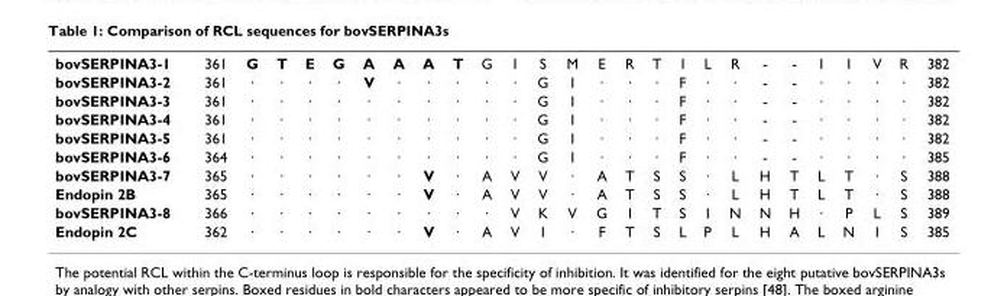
<table><tbody><tr><td>bovSERPINA3-1</td><td>361</td><td>G</td><td>T</td><td>E</td><td>G</td><td>A</td><td>A</td><td>A</td><td>T</td><td>G</td><td>I</td><td>S</td><td>M</td><td>E</td><td>R</td><td>T</td><td>I</td><td>L</td><td>R</td><td>-</td><td>-</td><td>I</td><td>I</td><td>V</td><td>R</td><td>382</td></tr><tr><td>bovSERPINA3-2</td><td>361</td><td>·</td><td>·</td><td>·</td><td>·</td><td>V</td><td>·</td><td>·</td><td>·</td><td>·</td><td>·</td><td>G</td><td>I</td><td>·</td><td>·</td><td>·</td><td>F</td><td>·</td><td>·</td><td>-</td><td>-</td><td>·</td><td>·</td><td>·</td><td>·</td><td>382</td></tr><tr><td>bovSERPINA3-3</td><td>361</td><td>·</td><td>·</td><td>·</td><td>·</td><td>·</td><td>·</td><td>·</td><td>·</td><td>·</td><td>·</td><td>G</td><td>I</td><td>·</td><td>·</td><td>·</td><td>F</td><td>·</td><td>·</td><td>-</td><td>-</td><td>·</td><td>·</td><td>·</td><td>·</td><td>382</td></tr><tr><td>bovSERPINA3-4</td><td>361</td><td>·</td><td>·</td><td>·</td><td>·</td><td>·</td><td>·</td><td>·</td><td>·</td><td>·</td><td>·</td><td>G</td><td>I</td><td>·</td><td>·</td><td>·</td><td>F</td><td>·</td><td>·</td><td>-</td><td>-</td><td>·</td><td>·</td><td>·</td><td>·</td><td>382</td></tr><tr><td>bovSERPINA3-5</td><td>361</td><td>·</td><td>·</td><td>·</td><td>·</td><td>·</td><td>·</td><td>·</td><td>·</td><td>·</td><td>·</td><td>G</td><td>I</td><td>·</td><td>·</td><td>·</td><td>F</td><td>·</td><td>·</td><td>-</td><td>-</td><td>·</td><td>·</td><td>·</td><td>·</td><td>382</td></tr><tr><td>bovSERPINA3-6</td><td>364</td><td>·</td><td>·</td><td>·</td><td>·</td><td>·</td><td>·</td><td>·</td><td>·</td><td>·</td><td>·</td><td>G</td><td>I</td><td>·</td><td>·</td><td>·</td><td>F</td><td>·</td><td>·</td><td>-</td><td>-</td><td>·</td><td>·</td><td>·</td><td>·</td><td>385</td></tr><tr><td>bovSERPINA3-7</td><td>365</td><td>·</td><td>·</td><td>·</td><td>·</td><td>·</td><td>·</td><td>V</td><td>·</td><td>A</td><td>V</td><td>V</td><td>·</td><td>A</td><td>T</td><td>S</td><td>S</td><td>·</td><td>L</td><td>H</td><td>T</td><td>L</td><td>T</td><td>·</td><td>S</td><td>388</td></tr><tr><td>Endopin 2B</td><td>365</td><td>·</td><td>·</td><td>·</td><td>·</td><td>·</td><td>·</td><td>V</td><td>·</td><td>A</td><td>V</td><td>V</td><td>·</td><td>A</td><td>T</td><td>S</td><td>S</td><td>·</td><td>L</td><td>H</td><td>T</td><td>L</td><td>T</td><td>·</td><td>S</td><td>388</td></tr><tr><td>bovSERPINA3-8</td><td>366</td><td>·</td><td>·</td><td>·</td><td>·</td><td>·</td><td>·</td><td>·</td><td>·</td><td>·</td><td>V</td><td>K</td><td>V</td><td>G</td><td>I</td><td>T</td><td>S</td><td>I</td><td>N</td><td>N</td><td>H</td><td>·</td><td>P</td><td>L</td><td>S</td><td>389</td></tr><tr><td>Endopin 2C</td><td>362</td><td>·</td><td>·</td><td>·</td><td>·</td><td>·</td><td>·</td><td>V</td><td>·</td><td>A</td><td>V</td><td>I</td><td>·</td><td>F</td><td>T</td><td>S</td><td>L</td><td>P</td><td>L</td><td>H</td><td>A</td><td>L</td><td>N</td><td>I</td><td>S</td><td>385</td></tr></tbody></table>